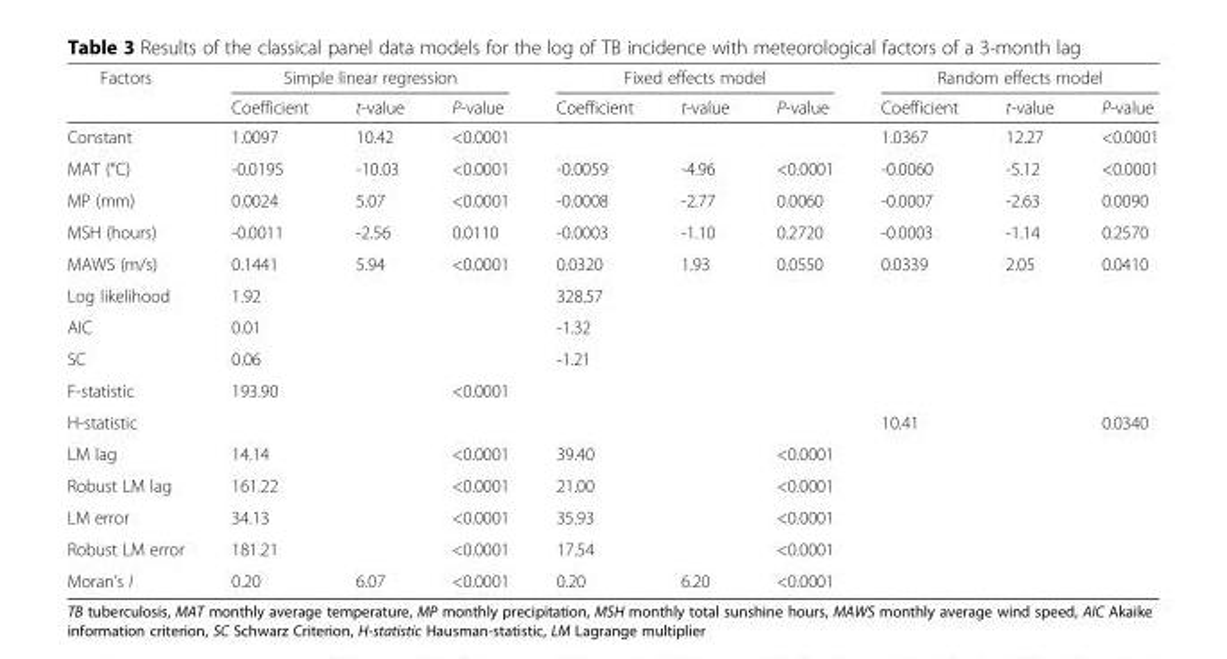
<table><thead><tr><td rowspan="2">Factors</td><td colspan="3">Simple linear regression</td><td colspan="3">Fixed effects model</td><td colspan="3">Random effects model</td></tr><tr><td>Coefficient</td><td>t-value</td><td>P-value</td><td>Coefficient</td><td>t-value</td><td>P-value</td><td>Coefficient</td><td>t-value</td><td>P-value</td></tr></thead><tbody><tr><td>Constant</td><td>1.0097</td><td>10.42</td><td>&lt;0.0001</td><td></td><td></td><td></td><td>1.0367</td><td>12.27</td><td>&lt;0.0001</td></tr><tr><td>MAT (°C)</td><td>-0.0195</td><td>-10.03</td><td>&lt;0.0001</td><td>-0.0059</td><td>-4.96</td><td>&lt;0.0001</td><td>-0.0060</td><td>-5.12</td><td>&lt;0.0001</td></tr><tr><td>MP (mm)</td><td>0.0024</td><td>5.07</td><td>&lt;0.0001</td><td>-0.0008</td><td>-2.77</td><td>0.0060</td><td>-0.0007</td><td>-2.63</td><td>0.0090</td></tr><tr><td>MSH (hours)</td><td>-0.0011</td><td>-2.56</td><td>0.0110</td><td>-0.0003</td><td>-1.10</td><td>0.2720</td><td>-0.0003</td><td>-1.14</td><td>0.2570</td></tr><tr><td>MAWS (m/s)</td><td>0.1441</td><td>5.94</td><td>&lt;0.0001</td><td>0.0320</td><td>1.93</td><td>0.0550</td><td>0.0339</td><td>2.05</td><td>0.0410</td></tr><tr><td>Log likelihood</td><td>1.92</td><td></td><td></td><td>328.57</td><td></td><td></td><td></td><td></td><td></td></tr><tr><td>AIC</td><td>0.01</td><td></td><td></td><td>-1.32</td><td></td><td></td><td></td><td></td><td></td></tr><tr><td>SC</td><td>0.06</td><td></td><td></td><td>-1.21</td><td></td><td></td><td></td><td></td><td></td></tr><tr><td>F-statistic</td><td>193.90</td><td></td><td>&lt;0.0001</td><td></td><td></td><td></td><td></td><td></td><td></td></tr><tr><td>H-statistic</td><td></td><td></td><td></td><td></td><td></td><td></td><td>10.41</td><td></td><td>0.0340</td></tr><tr><td>LM lag</td><td>14.14</td><td></td><td>&lt;0.0001</td><td>39.40</td><td></td><td>&lt;0.0001</td><td></td><td></td><td></td></tr><tr><td>Robust LM lag</td><td>161.22</td><td></td><td>&lt;0.0001</td><td>21.00</td><td></td><td>&lt;0.0001</td><td></td><td></td><td></td></tr><tr><td>LM error</td><td>34.13</td><td></td><td>&lt;0.0001</td><td>35.93</td><td></td><td>&lt;0.0001</td><td></td><td></td><td></td></tr><tr><td>Robust LM error</td><td>181.21</td><td></td><td>&lt;0.0001</td><td>17.54</td><td></td><td>&lt;0.0001</td><td></td><td></td><td></td></tr><tr><td>Moran’s I</td><td>0.20</td><td>6.07</td><td>&lt;0.0001</td><td>0.20</td><td>6.20</td><td>&lt;0.0001</td><td></td><td></td><td></td></tr></tbody></table>